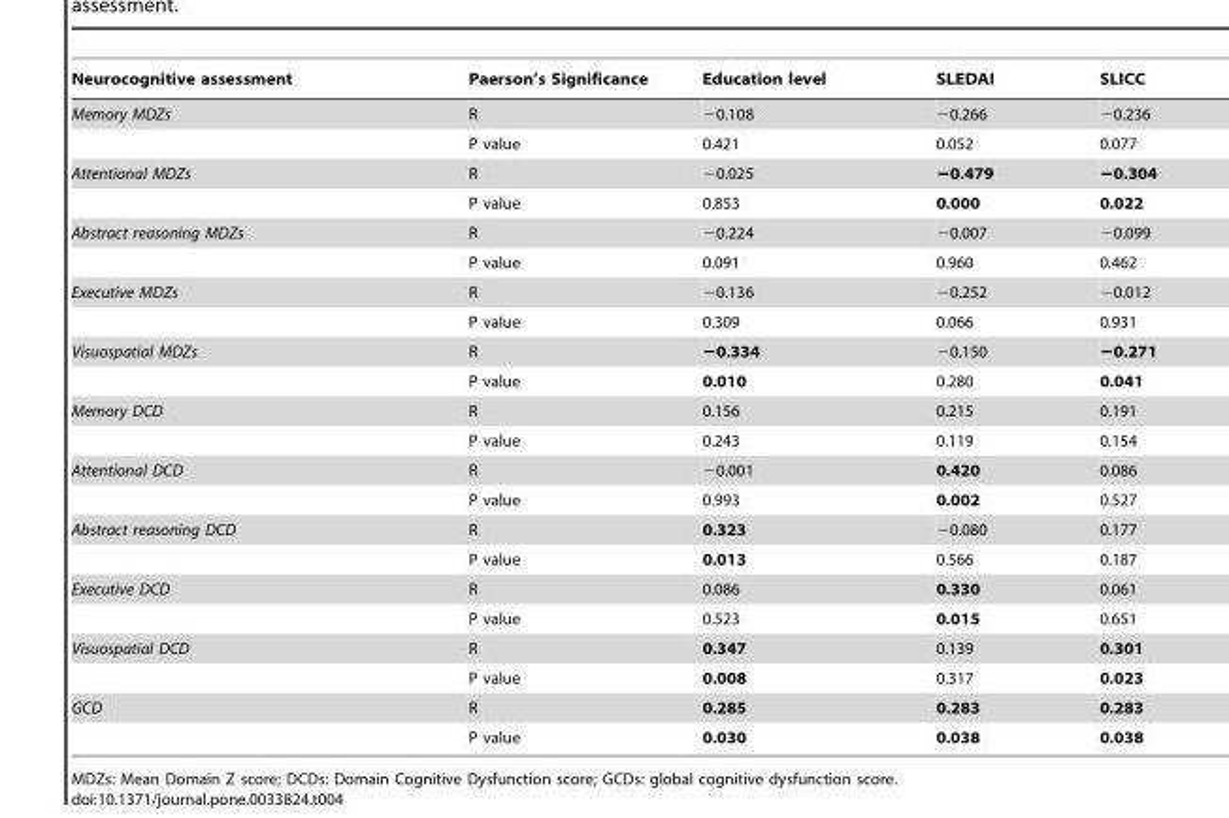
<table><thead><tr><td>Neurocognitive assessment</td><td>Paerson’s Significance</td><td>Education level</td><td>SLEDAI</td><td>SLICC</td></tr></thead><tbody><tr><td rowspan="2">Memory MDZs</td><td>R</td><td>−0.108</td><td>−0.266</td><td>−0.236</td></tr><tr><td>P value</td><td>0.421</td><td>0.052</td><td>0.077</td></tr><tr><td rowspan="2">Attentional MDZs</td><td>R</td><td>−0.025</td><td>−0.479</td><td>−0.304</td></tr><tr><td>P value</td><td>0.853</td><td>0.000</td><td>0.022</td></tr><tr><td rowspan="2">Abstract reasoning MDZs</td><td>R</td><td>−0.224</td><td>−0.007</td><td>−0.099</td></tr><tr><td>P value</td><td>0.091</td><td>0.960</td><td>0.462</td></tr><tr><td rowspan="2">Executive MDZs</td><td>R</td><td>−0.136</td><td>−0.252</td><td>−0.012</td></tr><tr><td>P value</td><td>0.309</td><td>0.066</td><td>0.931</td></tr><tr><td rowspan="2">Visuospatial MDZs</td><td>R</td><td>−0.334</td><td>−0.150</td><td>−0.271</td></tr><tr><td>P value</td><td>0.010</td><td>0.280</td><td>0.041</td></tr><tr><td rowspan="2">Memory DCD</td><td>R</td><td>0.156</td><td>0.215</td><td>0.191</td></tr><tr><td>P value</td><td>0.243</td><td>0.119</td><td>0.154</td></tr><tr><td rowspan="2">Attentional DCD</td><td>R</td><td>−0.001</td><td>0.420</td><td>0.086</td></tr><tr><td>P value</td><td>0.993</td><td>0.002</td><td>0.527</td></tr><tr><td rowspan="2">Abstract reasoning DCD</td><td>R</td><td>0.323</td><td>−0.080</td><td>0.177</td></tr><tr><td>P value</td><td>0.013</td><td>0.566</td><td>0.187</td></tr><tr><td rowspan="2">Executive DCD</td><td>R</td><td>0.086</td><td>0.330</td><td>0.061</td></tr><tr><td>P value</td><td>0.523</td><td>0.015</td><td>0.651</td></tr><tr><td rowspan="2">Visuospatial DCD</td><td>R</td><td>0.347</td><td>0.139</td><td>0.301</td></tr><tr><td>P value</td><td>0.008</td><td>0.317</td><td>0.023</td></tr><tr><td rowspan="2">GCD</td><td>R</td><td>0.285</td><td>0.283</td><td>0.283</td></tr><tr><td>P value</td><td>0.030</td><td>0.038</td><td>0.038</td></tr></tbody></table>